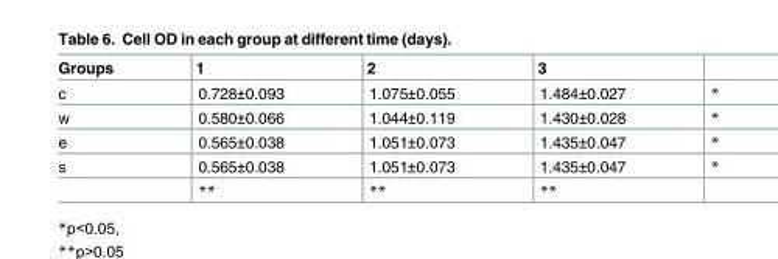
<table><thead><tr><td>Groups</td><td>1</td><td>2</td><td>3</td><td></td></tr></thead><tbody><tr><td>c</td><td>0.728±0.093</td><td>1.075±0.055</td><td>1.484±0.027</td><td>*</td></tr><tr><td>w</td><td>0.580±0.066</td><td>1.044±0.119</td><td>1.430±0.028</td><td>*</td></tr><tr><td>e</td><td>0.565±0.038</td><td>1.051±0.073</td><td>1.435±0.047</td><td>*</td></tr><tr><td rowspan="2">s</td><td>0.565±0.038</td><td>1.051±0.073</td><td>1.435±0.047</td><td>*</td></tr><tr><td>**</td><td>**</td><td>**</td><td></td></tr></tbody></table>